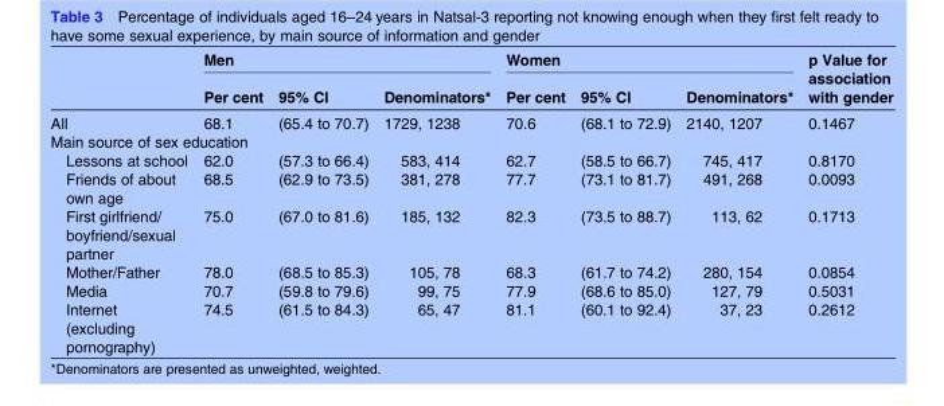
<table><thead><tr><td rowspan="2"></td><td colspan="3">Men</td><td colspan="3">Women</td><td rowspan="2">p Value for association with gender</td></tr><tr><td>Per cent</td><td>95% CI</td><td>Denominators*</td><td>Per cent</td><td>95% CI</td><td>Denominators*</td></tr></thead><tbody><tr><td>All</td><td>68.1</td><td>(65.4 to 70.7)</td><td>1729, 1238</td><td>70.6</td><td>(68.1 to 72.9)</td><td>2140, 1207</td><td>0.1467</td></tr><tr><td colspan="8">Main source of sex education</td></tr><tr><td>Lessons at school</td><td>62.0</td><td>(57.3 to 66.4)</td><td>583, 414</td><td>62.7</td><td>(58.5 to 66.7)</td><td>745, 417</td><td>0.8170</td></tr><tr><td>Friends of about own age</td><td>68.5</td><td>(62.9 to 73.5)</td><td>381, 278</td><td>77.7</td><td>(73.1 to 81.7)</td><td>491, 268</td><td>0.0093</td></tr><tr><td>First girlfriend/ boyfriend/sexual partner</td><td>75.0</td><td>(67.0 to 81.6)</td><td>185, 132</td><td>82.3</td><td>(73.5 to 88.7)</td><td>113, 62</td><td>0.1713</td></tr><tr><td>Mother/Father</td><td>78.0</td><td>(68.5 to 85.3)</td><td>105, 78</td><td>68.3</td><td>(61.7 to 74.2)</td><td>280, 154</td><td>0.0854</td></tr><tr><td>Media</td><td>70.7</td><td>(59.8 to 79.6)</td><td>99, 75</td><td>77.9</td><td>(68.6 to 85.0)</td><td>127, 79</td><td>0.5031</td></tr><tr><td>Internet (excluding pornography)</td><td>74.5</td><td>(61.5 to 84.3)</td><td>65, 47</td><td>81.1</td><td>(60.1 to 92.4)</td><td>37, 23</td><td>0.2612</td></tr></tbody></table>